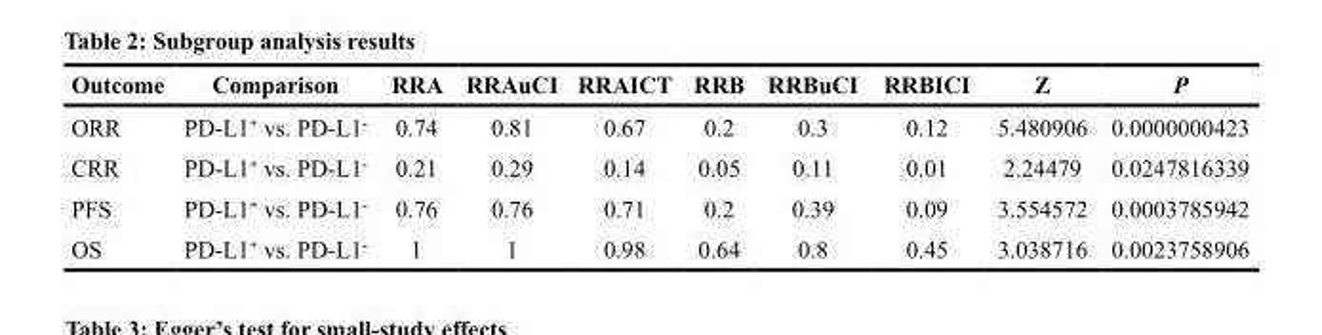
<table><thead><tr><td>Outcome</td><td>Comparison</td><td>RRA</td><td>RRAuCI</td><td>RRAICT</td><td>RRB</td><td>RRBuCI</td><td>RRBICI</td><td>Z</td><td>P</td></tr></thead><tbody><tr><td>ORR</td><td>PD-L1<sup>+</sup> vs. PD-L1<sup>-</sup></td><td>0.74</td><td>0.81</td><td>0.67</td><td>0.2</td><td>0.3</td><td>0.12</td><td>5.480906</td><td>0.0000000423</td></tr><tr><td>CRR</td><td>PD-L1<sup>+</sup> vs. PD-L1<sup>-</sup></td><td>0.21</td><td>0.29</td><td>0.14</td><td>0.05</td><td>0.11</td><td>0.01</td><td>2.24479</td><td>0.0247816339</td></tr><tr><td>PFS</td><td>PD-L1<sup>+</sup> vs. PD-L1<sup>-</sup></td><td>0.76</td><td>0.76</td><td>0.71</td><td>0.2</td><td>0.39</td><td>0.09</td><td>3.554572</td><td>0.0003785942</td></tr><tr><td>OS</td><td>PD-L1<sup>+</sup> vs. PD-L1<sup>-</sup></td><td>1</td><td>1</td><td>0.98</td><td>0.64</td><td>0.8</td><td>0.45</td><td>3.038716</td><td>0.0023758906</td></tr></tbody></table>